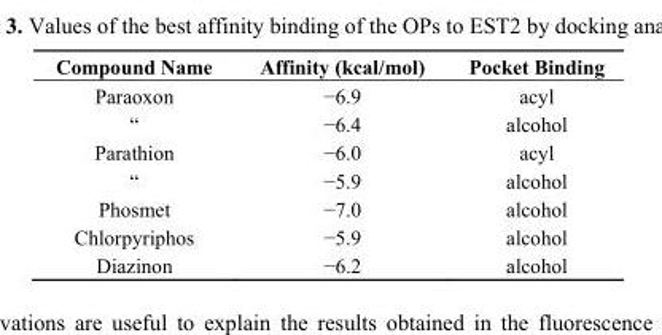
<table><thead><tr><td>Compound Name</td><td>Affinity (kcal/mol)</td><td>Pocket Binding</td></tr></thead><tbody><tr><td>Paraoxon</td><td>−6.9</td><td>acyl</td></tr><tr><td>“</td><td>−6.4</td><td>alcohol</td></tr><tr><td>Parathion</td><td>−6.0</td><td>acyl</td></tr><tr><td>“</td><td>−5.9</td><td>alcohol</td></tr><tr><td>Phosmet</td><td>−7.0</td><td>alcohol</td></tr><tr><td>Chlorpyriphos</td><td>−5.9</td><td>alcohol</td></tr><tr><td>Diazinon</td><td>−6.2</td><td>alcohol</td></tr></tbody></table>